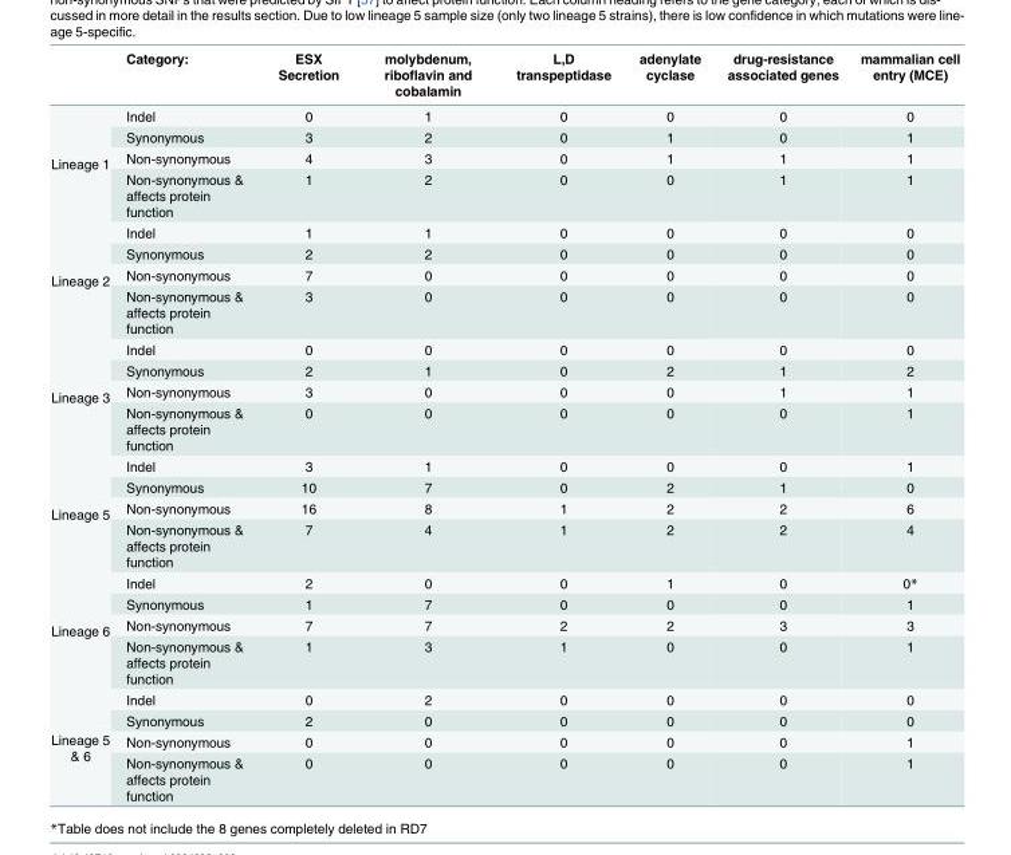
<table><thead><tr><td></td><td>Category:</td><td>ESX Secretion</td><td>molybdenum, riboflavin and cobalamin</td><td>L,D transpeptidase</td><td>adenylate cyclase</td><td>drug-resistance associated genes</td><td>mammalian cell entry (MCE)</td></tr></thead><tbody><tr><td rowspan="4">Lineage 1</td><td>Indel</td><td>0</td><td>1</td><td>0</td><td>0</td><td>0</td><td>0</td></tr><tr><td>Synonymous</td><td>3</td><td>2</td><td>0</td><td>1</td><td>0</td><td>1</td></tr><tr><td>Non-synonymous</td><td>4</td><td>3</td><td>0</td><td>1</td><td>1</td><td>1</td></tr><tr><td>Non-synonymous &amp; affects protein function</td><td>1</td><td>2</td><td>0</td><td>0</td><td>1</td><td>1</td></tr><tr><td rowspan="4">Lineage 2</td><td>Indel</td><td>1</td><td>1</td><td>0</td><td>0</td><td>0</td><td>0</td></tr><tr><td>Synonymous</td><td>2</td><td>2</td><td>0</td><td>0</td><td>0</td><td>0</td></tr><tr><td>Non-synonymous</td><td>7</td><td>0</td><td>0</td><td>0</td><td>0</td><td>0</td></tr><tr><td>Non-synonymous &amp; affects protein function</td><td>3</td><td>0</td><td>0</td><td>0</td><td>0</td><td>0</td></tr><tr><td rowspan="4">Lineage 3</td><td>Indel</td><td>0</td><td>0</td><td>0</td><td>0</td><td>0</td><td>0</td></tr><tr><td>Synonymous</td><td>2</td><td>1</td><td>0</td><td>2</td><td>1</td><td>2</td></tr><tr><td>Non-synonymous</td><td>3</td><td>0</td><td>0</td><td>0</td><td>1</td><td>1</td></tr><tr><td>Non-synonymous &amp; affects protein function</td><td>0</td><td>0</td><td>0</td><td>0</td><td>0</td><td>1</td></tr><tr><td rowspan="4">Lineage 5</td><td>Indel</td><td>3</td><td>1</td><td>0</td><td>0</td><td>0</td><td>1</td></tr><tr><td>Synonymous</td><td>10</td><td>7</td><td>0</td><td>2</td><td>1</td><td>0</td></tr><tr><td>Non-synonymous</td><td>16</td><td>8</td><td>1</td><td>2</td><td>2</td><td>6</td></tr><tr><td>Non-synonymous &amp; affects protein function</td><td>7</td><td>4</td><td>1</td><td>2</td><td>2</td><td>4</td></tr><tr><td rowspan="4">Lineage 6</td><td>Indel</td><td>2</td><td>0</td><td>0</td><td>1</td><td>0</td><td>0*</td></tr><tr><td>Synonymous</td><td>1</td><td>7</td><td>0</td><td>0</td><td>0</td><td>1</td></tr><tr><td>Non-synonymous</td><td>7</td><td>7</td><td>2</td><td>2</td><td>3</td><td>3</td></tr><tr><td>Non-synonymous &amp; affects protein function</td><td>1</td><td>3</td><td>1</td><td>0</td><td>0</td><td>1</td></tr><tr><td rowspan="4">Lineage 5 &amp; 6</td><td>Indel</td><td>0</td><td>2</td><td>0</td><td>0</td><td>0</td><td>0</td></tr><tr><td>Synonymous</td><td>2</td><td>0</td><td>0</td><td>0</td><td>0</td><td>0</td></tr><tr><td>Non-synonymous</td><td>0</td><td>0</td><td>0</td><td>0</td><td>0</td><td>1</td></tr><tr><td>Non-synonymous &amp; affects protein function</td><td>0</td><td>0</td><td>0</td><td>0</td><td>0</td><td>1</td></tr></tbody></table>